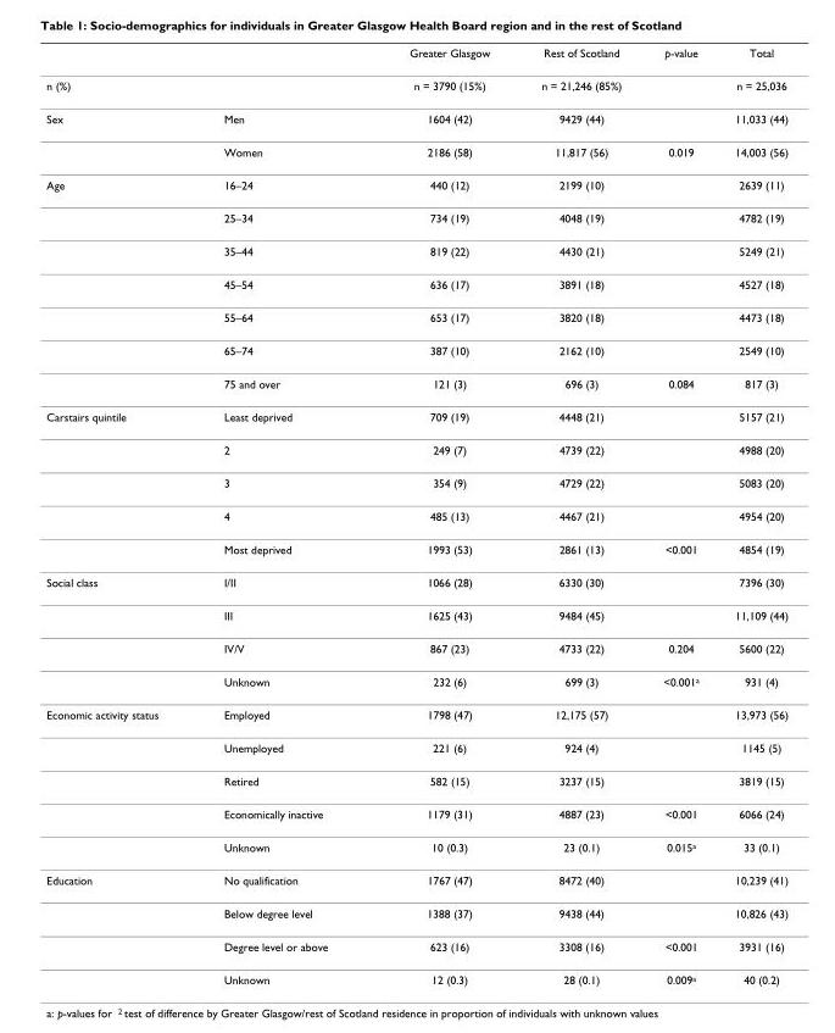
<table><thead><tr><td></td><td></td><td>Greater Glasgow</td><td>Rest of Scotland</td><td>p-value</td><td>Total</td></tr></thead><tbody><tr><td>n (%)</td><td></td><td>n = 3790 (15%)</td><td>n = 21,246 (85%)</td><td></td><td>n = 25,036</td></tr><tr><td rowspan="2">Sex</td><td>Men</td><td>1604 (42)</td><td>9429 (44)</td><td></td><td>11,033 (44)</td></tr><tr><td>Women</td><td>2186 (58)</td><td>11,817 (56)</td><td>0.019</td><td>14,003 (56)</td></tr><tr><td rowspan="7">Age</td><td>16–24</td><td>440 (12)</td><td>2199 (10)</td><td></td><td>2639 (11)</td></tr><tr><td>25–34</td><td>734 (19)</td><td>4048 (19)</td><td></td><td>4782 (19)</td></tr><tr><td>35–44</td><td>819 (22)</td><td>4430 (21)</td><td></td><td>5249 (21)</td></tr><tr><td>45–54</td><td>636 (17)</td><td>3891 (18)</td><td></td><td>4527 (18)</td></tr><tr><td>55–64</td><td>653 (17)</td><td>3820 (18)</td><td></td><td>4473 (18)</td></tr><tr><td>65–74</td><td>387 (10)</td><td>2162 (10)</td><td></td><td>2549 (10)</td></tr><tr><td>75 and over</td><td>121 (3)</td><td>696 (3)</td><td>0.084</td><td>817 (3)</td></tr><tr><td rowspan="5">Carstairs quintile</td><td>Least deprived</td><td>709 (19)</td><td>4448 (21)</td><td></td><td>5157 (21)</td></tr><tr><td>2</td><td>249 (7)</td><td>4739 (22)</td><td></td><td>4988 (20)</td></tr><tr><td>3</td><td>354 (9)</td><td>4729 (22)</td><td></td><td>5083 (20)</td></tr><tr><td>4</td><td>485 (13)</td><td>4467 (21)</td><td></td><td>4954 (20)</td></tr><tr><td>Most deprived</td><td>1993 (53)</td><td>2861 (13)</td><td>&lt;0.001</td><td>4854 (19)</td></tr><tr><td rowspan="4">Social class</td><td>I/II</td><td>1066 (28)</td><td>6330 (30)</td><td></td><td>7396 (30)</td></tr><tr><td>III</td><td>1625 (43)</td><td>9484 (45)</td><td></td><td>11,109 (44)</td></tr><tr><td>IV/V</td><td>867 (23)</td><td>4733 (22)</td><td>0.204</td><td>5600 (22)</td></tr><tr><td>Unknown</td><td>232 (6)</td><td>699 (3)</td><td>&lt;0.001<sup>a</sup></td><td>931 (4)</td></tr><tr><td rowspan="5">Economic activity status</td><td>Employed</td><td>1798 (47)</td><td>12,175 (57)</td><td></td><td>13,973 (56)</td></tr><tr><td>Unemployed</td><td>221 (6)</td><td>924 (4)</td><td></td><td>1145 (5)</td></tr><tr><td>Retired</td><td>582 (15)</td><td>3237 (15)</td><td></td><td>3819 (15)</td></tr><tr><td>Economically inactive</td><td>1179 (31)</td><td>4887 (23)</td><td>&lt;0.001</td><td>6066 (24)</td></tr><tr><td>Unknown</td><td>10 (0.3)</td><td>23 (0.1)</td><td>0.015<sup>a</sup></td><td>33 (0.1)</td></tr><tr><td rowspan="4">Education</td><td>No qualification</td><td>1767 (47)</td><td>8472 (40)</td><td></td><td>10,239 (41)</td></tr><tr><td>Below degree level</td><td>1388 (37)</td><td>9438 (44)</td><td></td><td>10,826 (43)</td></tr><tr><td>Degree level or above</td><td>623 (16)</td><td>3308 (16)</td><td>&lt;0.001</td><td>3931 (16)</td></tr><tr><td>Unknown</td><td>12 (0.3)</td><td>28 (0.1)</td><td>0.009<sup>a</sup></td><td>40 (0.2)</td></tr></tbody></table>